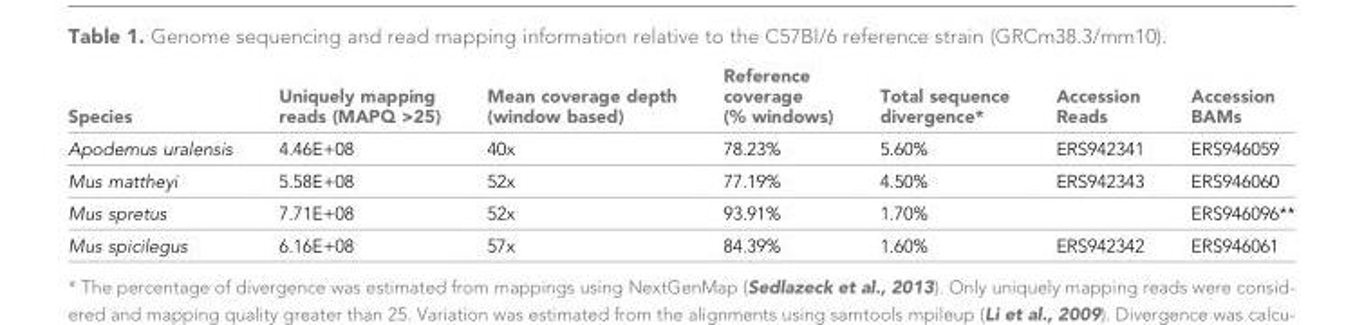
<table><thead><tr><td>Species</td><td>Uniquely mapping reads (MAPQ &gt;25)</td><td>Mean coverage depth (window based)</td><td>Reference coverage (% windows)</td><td>Total sequence divergence*</td><td>Accession Reads</td><td>Accession BAMs</td></tr></thead><tbody><tr><td>Apodemus uralensis</td><td>4.46E+08</td><td>40x</td><td>78.23%</td><td>5.60%</td><td>ERS942341</td><td>ERS946059</td></tr><tr><td>Mus mattheyi</td><td>5.58E+08</td><td>52x</td><td>77.19%</td><td>4.50%</td><td>ERS942343</td><td>ERS946060</td></tr><tr><td>Mus spretus</td><td>7.71E+08</td><td>52x</td><td>93.91%</td><td>1.70%</td><td></td><td>ERS946096**</td></tr><tr><td>Mus spicilegus</td><td>6.16E+08</td><td>57x</td><td>84.39%</td><td>1.60%</td><td>ERS942342</td><td>ERS946061</td></tr></tbody></table>